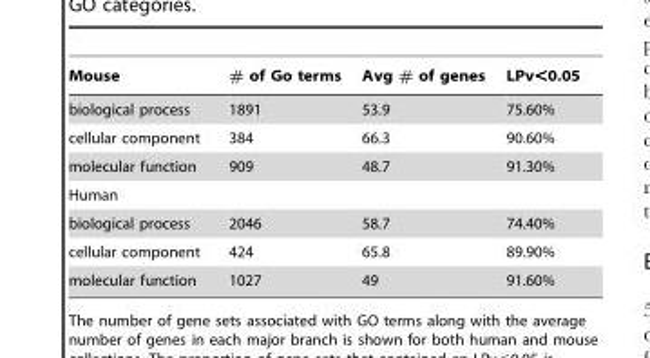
<table><thead><tr><td>Mouse</td><td># of Go terms</td><td>Avg # of genes</td><td>LPv&lt;0.05</td></tr></thead><tbody><tr><td>biological process</td><td>1891</td><td>53.9</td><td>75.60%</td></tr><tr><td>cellular component</td><td>384</td><td>66.3</td><td>90.60%</td></tr><tr><td>molecular function</td><td>909</td><td>48.7</td><td>91.30%</td></tr><tr><td colspan="4">Human</td></tr><tr><td>biological process</td><td>2046</td><td>58.7</td><td>74.40%</td></tr><tr><td>cellular component</td><td>424</td><td>65.8</td><td>89.90%</td></tr><tr><td>molecular function</td><td>1027</td><td>49</td><td>91.60%</td></tr></tbody></table>